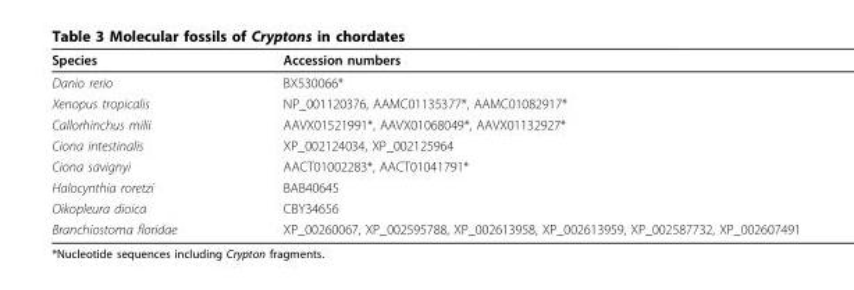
<table><thead><tr><td>Species</td><td>Accession numbers</td></tr></thead><tbody><tr><td>Danio rerio</td><td>BX530066*</td></tr><tr><td>Xenopus tropicalis</td><td>NP_001120376, AAMC01135377*, AAMC01082917*</td></tr><tr><td>Callorhinchus milii</td><td>AAVX01521991*, AAVX01068049*, AAVX01132927*</td></tr><tr><td>Ciona intestinalis</td><td>XP_002124034, XP_002125964</td></tr><tr><td>Ciona savignyi</td><td>AACT01002283*, AACT01041791*</td></tr><tr><td>Halocynthia roretzi</td><td>BAB40645</td></tr><tr><td>Oikopleura dioica</td><td>CBY34656</td></tr><tr><td>Branchiostoma floridae</td><td>XP_00260067, XP_002595788, XP_002613958, XP_002613959, XP_002587732, XP_002607491</td></tr></tbody></table>